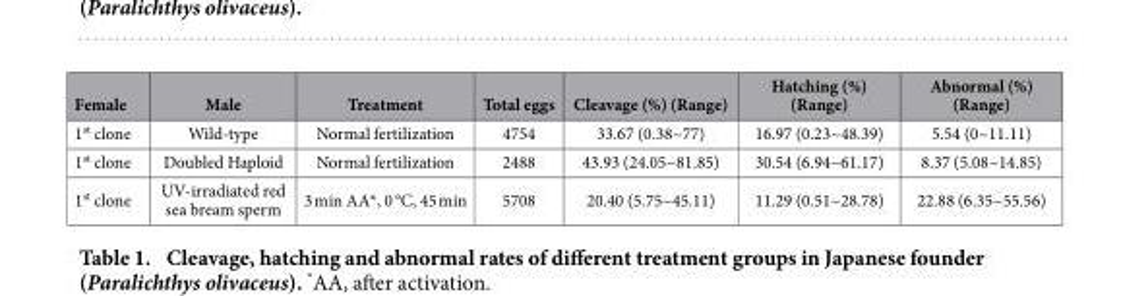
<table><thead><tr><td>Female</td><td>Male</td><td>Treatment</td><td>Total eggs</td><td>Cleavage (%) (Range)</td><td>Hatching (%) (Range)</td><td>Abnormal (%) (Range)</td></tr></thead><tbody><tr><td>1<sup>st</sup> clone</td><td>Wild-type</td><td>Normal fertilization</td><td>4754</td><td>33.67 (0.38~77)</td><td>16.97 (0.23~48.39)</td><td>5.54 (0~11.11)</td></tr><tr><td>1<sup>st</sup> clone</td><td>Doubled Haploid</td><td>Normal fertilization</td><td>2488</td><td>43.93 (24.05~81.85)</td><td>30.54 (6.94~61.17)</td><td>8.37 (5.08~14.85)</td></tr><tr><td>1<sup>st</sup> clone</td><td>UV-irradiated red sea bream sperm</td><td>3 min AA*, 0 °C, 45 min</td><td>5708</td><td>20.40 (5.75~45.11)</td><td>11.29 (0.51~28.78)</td><td>22.88 (6.35~55.56)</td></tr></tbody></table>